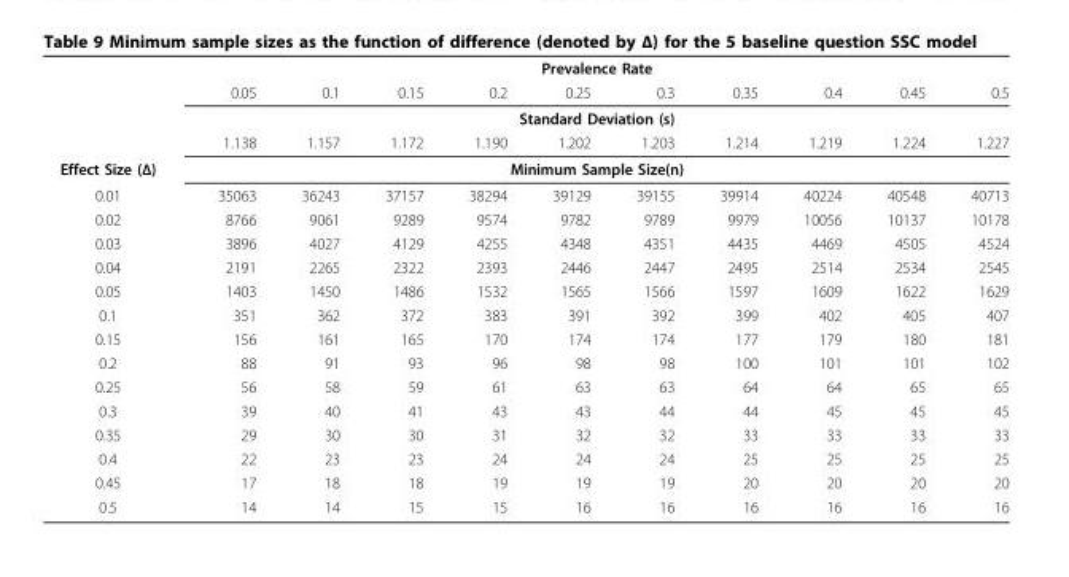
<table><thead><tr><td rowspan="2"></td><td colspan="10">Prevalence Rate</td></tr><tr><td>0.05</td><td>0.1</td><td>0.15</td><td>0.2</td><td>0.25</td><td>0.3</td><td>0.35</td><td>0.4</td><td>0.45</td><td>0.5</td></tr></thead><tbody><tr><td></td><td colspan="10">Standard Deviation (s)</td></tr><tr><td></td><td>1.138</td><td>1.157</td><td>1.172</td><td>1.190</td><td>1.202</td><td>1.203</td><td>1.214</td><td>1.219</td><td>1.224</td><td>1.227</td></tr><tr><td>Effect Size (Δ)</td><td colspan="10">Minimum Sample Size(n)</td></tr><tr><td>0.01</td><td>35063</td><td>36243</td><td>37157</td><td>38294</td><td>39129</td><td>39155</td><td>39914</td><td>40224</td><td>40548</td><td>40713</td></tr><tr><td>0.02</td><td>8766</td><td>9061</td><td>9289</td><td>9574</td><td>9782</td><td>9789</td><td>9979</td><td>10056</td><td>10137</td><td>10178</td></tr><tr><td>0.03</td><td>3896</td><td>4027</td><td>4129</td><td>4255</td><td>4348</td><td>4351</td><td>4435</td><td>4469</td><td>4505</td><td>4524</td></tr><tr><td>0.04</td><td>2191</td><td>2265</td><td>2322</td><td>2393</td><td>2446</td><td>2447</td><td>2495</td><td>2514</td><td>2534</td><td>2545</td></tr><tr><td>0.05</td><td>1403</td><td>1450</td><td>1486</td><td>1532</td><td>1565</td><td>1566</td><td>1597</td><td>1609</td><td>1622</td><td>1629</td></tr><tr><td>0.1</td><td>351</td><td>362</td><td>372</td><td>383</td><td>391</td><td>392</td><td>399</td><td>402</td><td>405</td><td>407</td></tr><tr><td>0.15</td><td>156</td><td>161</td><td>165</td><td>170</td><td>174</td><td>174</td><td>177</td><td>179</td><td>180</td><td>181</td></tr><tr><td>0.2</td><td>88</td><td>91</td><td>93</td><td>96</td><td>98</td><td>98</td><td>100</td><td>101</td><td>101</td><td>102</td></tr><tr><td>0.25</td><td>56</td><td>58</td><td>59</td><td>61</td><td>63</td><td>63</td><td>64</td><td>64</td><td>65</td><td>65</td></tr><tr><td>0.3</td><td>39</td><td>40</td><td>41</td><td>43</td><td>43</td><td>44</td><td>44</td><td>45</td><td>45</td><td>45</td></tr><tr><td>0.35</td><td>29</td><td>30</td><td>30</td><td>31</td><td>32</td><td>32</td><td>33</td><td>33</td><td>33</td><td>33</td></tr><tr><td>0.4</td><td>22</td><td>23</td><td>23</td><td>24</td><td>24</td><td>24</td><td>25</td><td>25</td><td>25</td><td>25</td></tr><tr><td>0.45</td><td>17</td><td>18</td><td>18</td><td>19</td><td>19</td><td>19</td><td>20</td><td>20</td><td>20</td><td>20</td></tr><tr><td>0.5</td><td>14</td><td>14</td><td>15</td><td>15</td><td>16</td><td>16</td><td>16</td><td>16</td><td>16</td><td>16</td></tr></tbody></table>